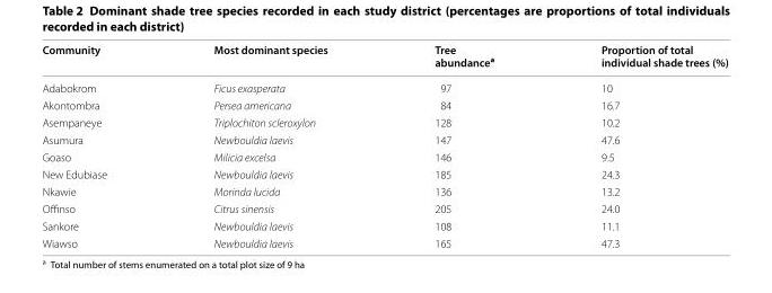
<table><thead><tr><td>Community</td><td>Most dominant species</td><td>Tree abundance<sup>a</sup></td><td>Proportion of total individual shade trees (%)</td></tr></thead><tbody><tr><td>Adabokrom</td><td>Ficus exasperata</td><td>97</td><td>10</td></tr><tr><td>Akontombra</td><td>Persea americana</td><td>84</td><td>16.7</td></tr><tr><td>Asempaneye</td><td>Triplochiton scleroxylon</td><td>128</td><td>10.2</td></tr><tr><td>Asumura</td><td>Newbouldia laevis</td><td>147</td><td>47.6</td></tr><tr><td>Goaso</td><td>Milicia excelsa</td><td>146</td><td>9.5</td></tr><tr><td>New Edubiase</td><td>Newbouldia laevis</td><td>185</td><td>24.3</td></tr><tr><td>Nkawie</td><td>Morinda lucida</td><td>136</td><td>13.2</td></tr><tr><td>Offinso</td><td>Citrus sinensis</td><td>205</td><td>24.0</td></tr><tr><td>Sankore</td><td>Newbouldia laevis</td><td>108</td><td>11.1</td></tr><tr><td>Wiawso</td><td>Newbouldia laevis</td><td>165</td><td>47.3</td></tr></tbody></table>